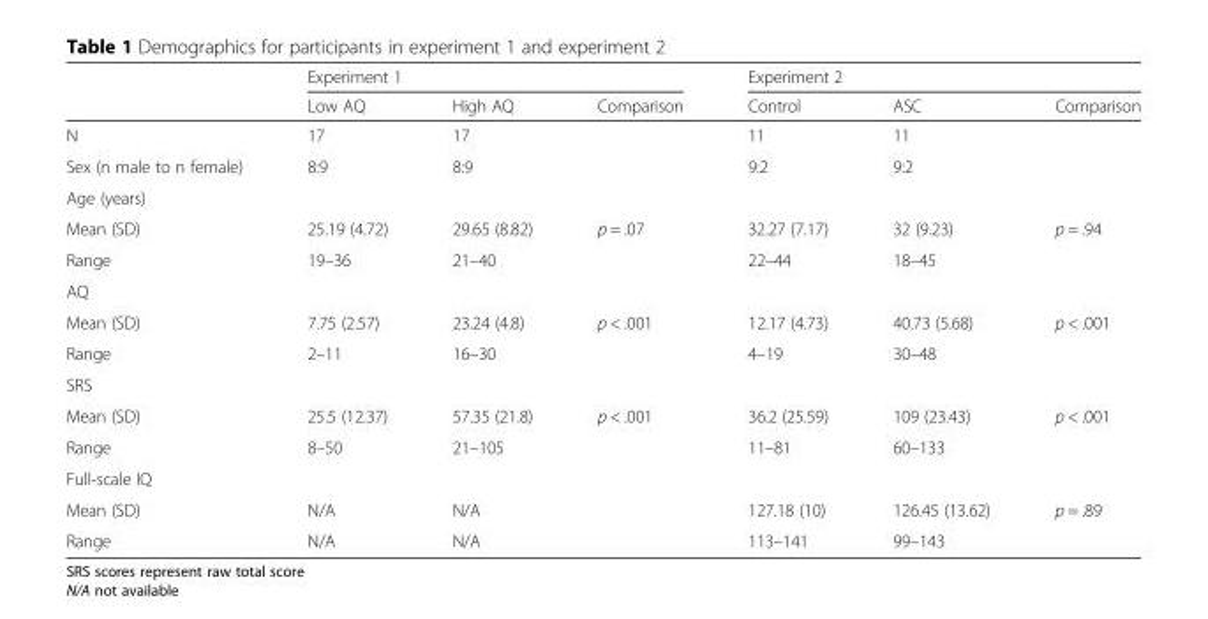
<table><thead><tr><td rowspan="2"></td><td colspan="3">Experiment 1</td><td colspan="3">Experiment 2</td></tr><tr><td>Low AQ</td><td>High AQ</td><td>Comparison</td><td>Control</td><td>ASC</td><td>Comparison</td></tr></thead><tbody><tr><td>N</td><td>17</td><td>17</td><td></td><td>11</td><td>11</td><td></td></tr><tr><td>Sex (n male to n female)</td><td>8:9</td><td>8:9</td><td></td><td>9:2</td><td>9:2</td><td></td></tr><tr><td colspan="7">Age (years)</td></tr><tr><td>Mean (SD)</td><td>25.19 (4.72)</td><td>29.65 (8.82)</td><td>p = .07</td><td>32.27 (7.17)</td><td>32 (9.23)</td><td>p = .94</td></tr><tr><td>Range</td><td>19–36</td><td>21–40</td><td></td><td>22–44</td><td>18–45</td><td></td></tr><tr><td colspan="7">AQ</td></tr><tr><td>Mean (SD)</td><td>7.75 (2.57)</td><td>23.24 (4.8)</td><td>p &lt; .001</td><td>12.17 (4.73)</td><td>40.73 (5.68)</td><td>p &lt; .001</td></tr><tr><td>Range</td><td>2–11</td><td>16–30</td><td></td><td>4–19</td><td>30–48</td><td></td></tr><tr><td colspan="7">SRS</td></tr><tr><td>Mean (SD)</td><td>25.5 (12.37)</td><td>57.35 (21.8)</td><td>p &lt; .001</td><td>36.2 (25.59)</td><td>109 (23.43)</td><td>p &lt; .001</td></tr><tr><td>Range</td><td>8–50</td><td>21–105</td><td></td><td>11–81</td><td>60–133</td><td></td></tr><tr><td colspan="7">Full-scale IQ</td></tr><tr><td>Mean (SD)</td><td>N/A</td><td>N/A</td><td></td><td>127.18 (10)</td><td>126.45 (13.62)</td><td>p = .89</td></tr><tr><td>Range</td><td>N/A</td><td>N/A</td><td></td><td>113–141</td><td>99–143</td><td></td></tr></tbody></table>